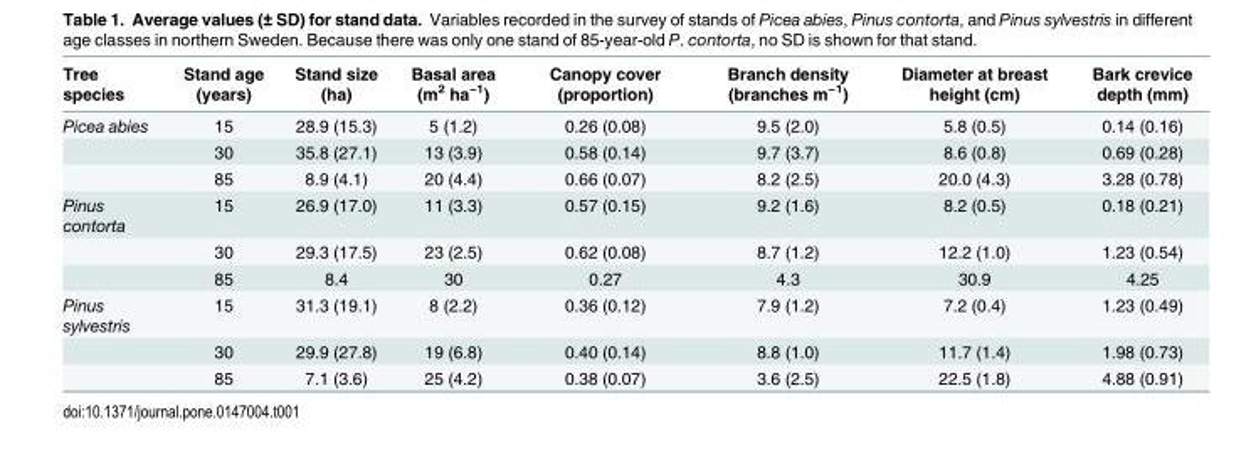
<table><thead><tr><td>Tree species</td><td>Stand age (years)</td><td>Stand size (ha)</td><td>Basal area (m<sup>2</sup> ha<sup>−1</sup>)</td><td>Canopy cover (proportion)</td><td>Branch density (branches m<sup>−1</sup>)</td><td>Diameter at breast height (cm)</td><td>Bark crevice depth (mm)</td></tr></thead><tbody><tr><td rowspan="3">Picea abies</td><td>15</td><td>28.9 (15.3)</td><td>5 (1.2)</td><td>0.26 (0.08)</td><td>9.5 (2.0)</td><td>5.8 (0.5)</td><td>0.14 (0.16)</td></tr><tr><td>30</td><td>35.8 (27.1)</td><td>13 (3.9)</td><td>0.58 (0.14)</td><td>9.7 (3.7)</td><td>8.6 (0.8)</td><td>0.69 (0.28)</td></tr><tr><td>85</td><td>8.9 (4.1)</td><td>20 (4.4)</td><td>0.66 (0.07)</td><td>8.2 (2.5)</td><td>20.0 (4.3)</td><td>3.28 (0.78)</td></tr><tr><td rowspan="3">Pinus contorta</td><td>15</td><td>26.9 (17.0)</td><td>11 (3.3)</td><td>0.57 (0.15)</td><td>9.2 (1.6)</td><td>8.2 (0.5)</td><td>0.18 (0.21)</td></tr><tr><td>30</td><td>29.3 (17.5)</td><td>23 (2.5)</td><td>0.62 (0.08)</td><td>8.7 (1.2)</td><td>12.2 (1.0)</td><td>1.23 (0.54)</td></tr><tr><td>85</td><td>8.4</td><td>30</td><td>0.27</td><td>4.3</td><td>30.9</td><td>4.25</td></tr><tr><td rowspan="3">Pinus sylvestris</td><td>15</td><td>31.3 (19.1)</td><td>8 (2.2)</td><td>0.36 (0.12)</td><td>7.9 (1.2)</td><td>7.2 (0.4)</td><td>1.23 (0.49)</td></tr><tr><td>30</td><td>29.9 (27.8)</td><td>19 (6.8)</td><td>0.40 (0.14)</td><td>8.8 (1.0)</td><td>11.7 (1.4)</td><td>1.98 (0.73)</td></tr><tr><td>85</td><td>7.1 (3.6)</td><td>25 (4.2)</td><td>0.38 (0.07)</td><td>3.6 (2.5)</td><td>22.5 (1.8)</td><td>4.88 (0.91)</td></tr></tbody></table>